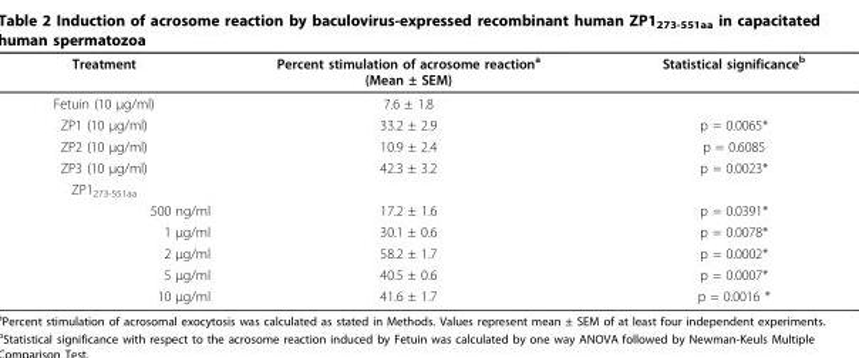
<table><thead><tr><td>Treatment</td><td>Percent stimulation of acrosome reaction<sup>a</sup> (Mean ± SEM)</td><td>Statistical significance<sup>b</sup></td></tr></thead><tbody><tr><td>Fetuin (10 μg/ml)</td><td>7.6 ± 1.8</td><td></td></tr><tr><td>ZP1 (10 μg/ml)</td><td>33.2 ± 2.9</td><td>p = 0.0065*</td></tr><tr><td>ZP2 (10 μg/ml)</td><td>10.9 ± 2.4</td><td>p = 0.6085</td></tr><tr><td>ZP3 (10 μg/ml)</td><td>42.3 ± 3.2</td><td>p = 0.0023*</td></tr><tr><td colspan="3">ZP1<sub>273-551aa</sub></td></tr><tr><td>500 ng/ml</td><td>17.2 ± 1.6</td><td>p = 0.0391*</td></tr><tr><td>1 μg/ml</td><td>30.1 ± 0.6</td><td>p = 0.0078*</td></tr><tr><td>2 μg/ml</td><td>58.2 ± 1.7</td><td>p = 0.0002*</td></tr><tr><td>5 μg/ml</td><td>40.5 ± 0.6</td><td>p = 0.0007*</td></tr><tr><td>10 μg/ml</td><td>41.6 ± 1.7</td><td>p = 0.0016 *</td></tr></tbody></table>